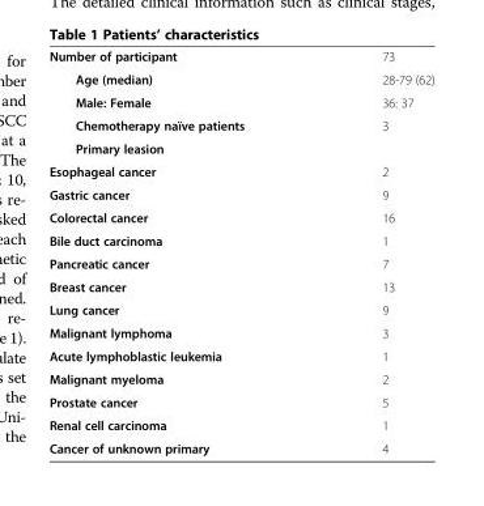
<table><tbody><tr><td>Number of participant</td><td>73</td></tr><tr><td>Age (median)</td><td>28-79 (62)</td></tr><tr><td>Male: Female</td><td>36: 37</td></tr><tr><td>Chemotherapy naïve patients</td><td>3</td></tr><tr><td colspan="2">Primary leasion</td></tr><tr><td>Esophageal cancer</td><td>2</td></tr><tr><td>Gastric cancer</td><td>9</td></tr><tr><td>Colorectal cancer</td><td>16</td></tr><tr><td>Bile duct carcinoma</td><td>1</td></tr><tr><td>Pancreatic cancer</td><td>7</td></tr><tr><td>Breast cancer</td><td>13</td></tr><tr><td>Lung cancer</td><td>9</td></tr><tr><td>Malignant lymphoma</td><td>3</td></tr><tr><td>Acute lymphoblastic leukemia</td><td>1</td></tr><tr><td>Malignant myeloma</td><td>2</td></tr><tr><td>Prostate cancer</td><td>5</td></tr><tr><td>Renal cell carcinoma</td><td>1</td></tr><tr><td>Cancer of unknown primary</td><td>4</td></tr></tbody></table>